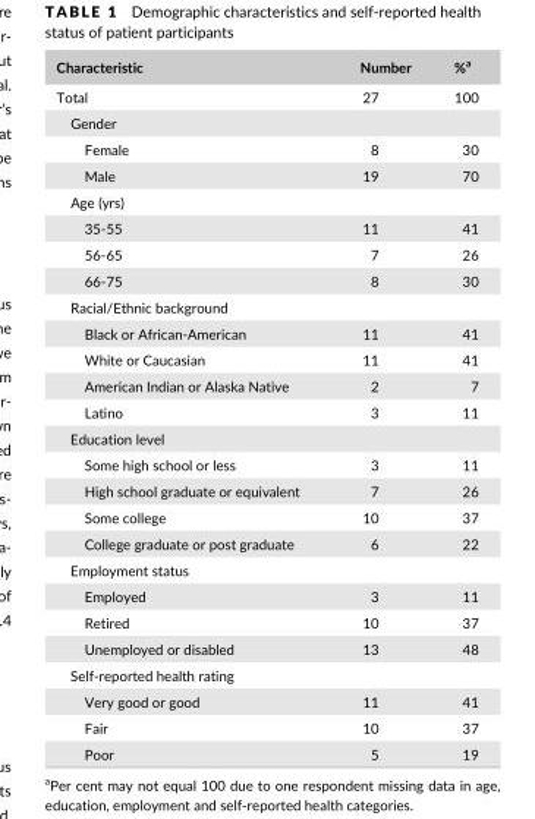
<table><thead><tr><td>Characteristic</td><td>Number</td><td>%<sup>a</sup></td></tr></thead><tbody><tr><td>Total</td><td>27</td><td>100</td></tr><tr><td colspan="3">Gender</td></tr><tr><td>Female</td><td>8</td><td>30</td></tr><tr><td>Male</td><td>19</td><td>70</td></tr><tr><td colspan="3">Age (yrs)</td></tr><tr><td>35- 55</td><td>11</td><td>41</td></tr><tr><td>56- 65</td><td>7</td><td>26</td></tr><tr><td>66- 75</td><td>8</td><td>30</td></tr><tr><td colspan="3">Racial/Ethnic background</td></tr><tr><td>Black or African- American</td><td>11</td><td>41</td></tr><tr><td>White or Caucasian</td><td>11</td><td>41</td></tr><tr><td>American Indian or Alaska Native</td><td>2</td><td>7</td></tr><tr><td>Latino</td><td>3</td><td>11</td></tr><tr><td colspan="3">Education level</td></tr><tr><td>Some high school or less</td><td>3</td><td>11</td></tr><tr><td>High school graduate or equivalent</td><td>7</td><td>26</td></tr><tr><td>Some college</td><td>10</td><td>37</td></tr><tr><td>College graduate or post graduate</td><td>6</td><td>22</td></tr><tr><td colspan="3">Employment status</td></tr><tr><td>Employed</td><td>3</td><td>11</td></tr><tr><td>Retired</td><td>10</td><td>37</td></tr><tr><td>Unemployed or disabled</td><td>13</td><td>48</td></tr><tr><td colspan="3">Self- reported health rating</td></tr><tr><td>Very good or good</td><td>11</td><td>41</td></tr><tr><td>Fair</td><td>10</td><td>37</td></tr><tr><td>Poor</td><td>5</td><td>19</td></tr></tbody></table>